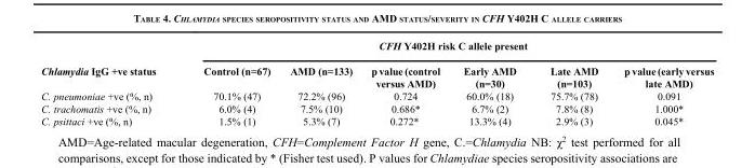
<table><thead><tr><td rowspan="2">Chlamydia IgG +ve status</td><td colspan="6">CFH Y402H risk C allele present</td></tr><tr><td>Control (n=67)</td><td>AMD (n=133)</td><td>p value (control versus AMD)</td><td>Early AMD (n=30)</td><td>Late AMD (n=103)</td><td>p value (early versus late AMD)</td></tr></thead><tbody><tr><td>C. pneumoniae +ve (%, n)</td><td>70.1% (47)</td><td>72.2% (96)</td><td>0.724</td><td>60.0% (18)</td><td>75.7% (78)</td><td>0.091</td></tr><tr><td>C. trachomatis +ve (%, n)</td><td>6.0% (4)</td><td>7.5% (10)</td><td>0.686*</td><td>6.7% (2)</td><td>7.8% (8)</td><td>1.000*</td></tr><tr><td>C. psittaci +ve (%, n)</td><td>1.5% (1)</td><td>5.3% (7)</td><td>0.272 *</td><td>13.3% (4)</td><td>2.9% (3)</td><td>0.045*</td></tr></tbody></table>